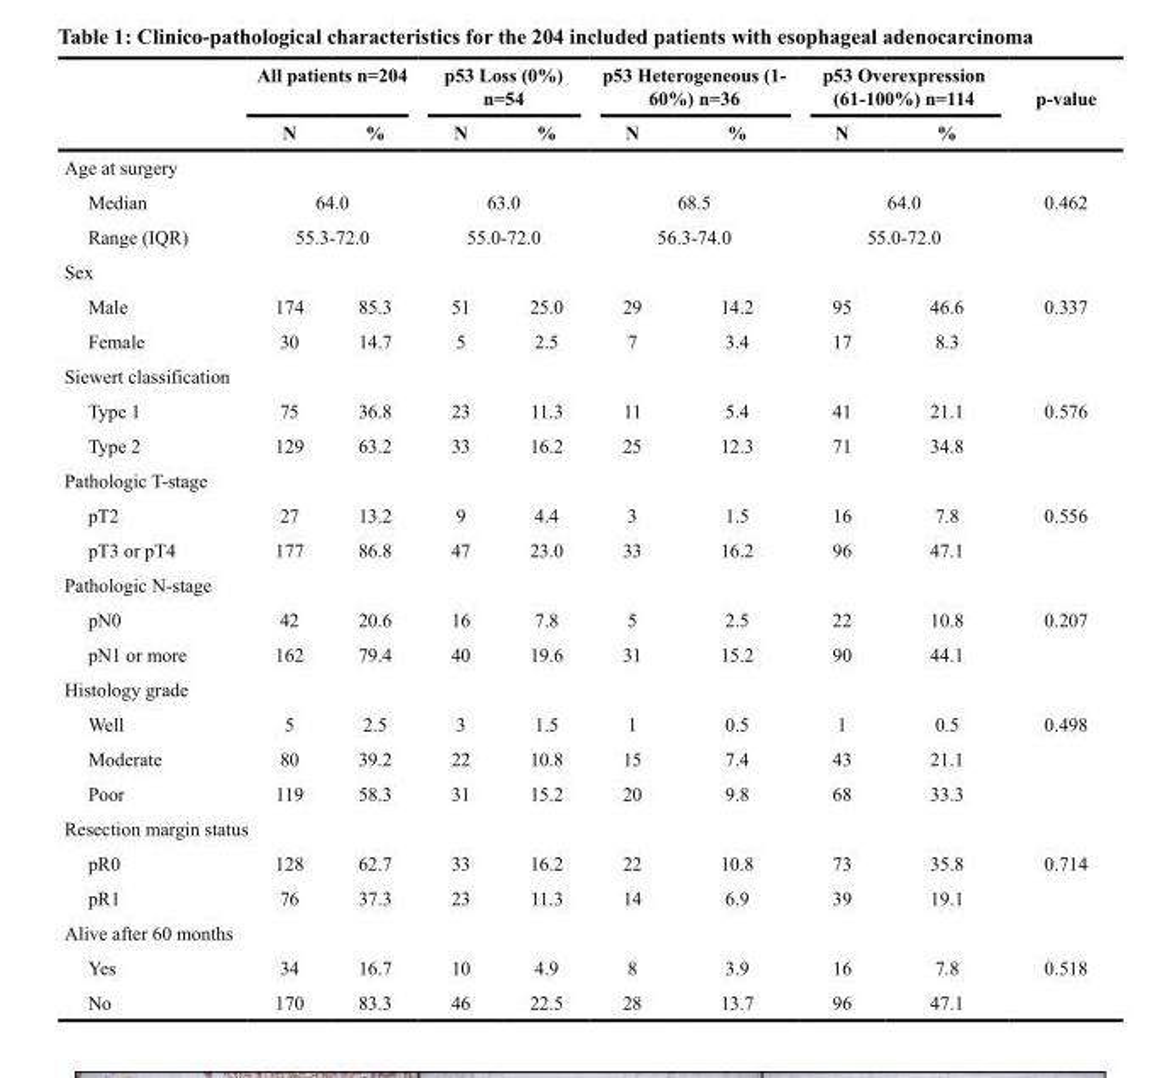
<table><thead><tr><td rowspan="2"></td><td colspan="2">All patients n=204</td><td colspan="2">p53 Loss (0%) n=54</td><td colspan="2">p53 Heterogeneous (1- 60%) n=36</td><td colspan="2">p53 Overexpression (61-100%) n=114</td><td rowspan="2">p-value</td></tr><tr><td>N</td><td>%</td><td>N</td><td>%</td><td>N</td><td>%</td><td>N</td><td>%</td></tr></thead><tbody><tr><td colspan="10">Age at surgery</td></tr><tr><td>Median</td><td colspan="2">64.0</td><td colspan="2">63.0</td><td colspan="2">68.5</td><td colspan="2">64.0</td><td>0.462</td></tr><tr><td>Range (IQR)</td><td colspan="2">55.3-72.0</td><td colspan="2">55.0-72.0</td><td colspan="2">56.3-74.0</td><td colspan="2">55.0-72.0</td><td></td></tr><tr><td colspan="10">Sex</td></tr><tr><td>Male</td><td>174</td><td>85.3</td><td>51</td><td>25.0</td><td>29</td><td>14.2</td><td>95</td><td>46.6</td><td>0.337</td></tr><tr><td>Female</td><td>30</td><td>14.7</td><td>5</td><td>2.5</td><td>7</td><td>3.4</td><td>17</td><td>8.3</td><td></td></tr><tr><td colspan="10">Siewert classification</td></tr><tr><td>Type 1</td><td>75</td><td>36.8</td><td>23</td><td>11.3</td><td>11</td><td>5.4</td><td>41</td><td>21.1</td><td>0.576</td></tr><tr><td>Type 2</td><td>129</td><td>63.2</td><td>33</td><td>16.2</td><td>25</td><td>12.3</td><td>71</td><td>34.8</td><td></td></tr><tr><td colspan="10">Pathologic T-stage</td></tr><tr><td>pT2</td><td>27</td><td>13.2</td><td>9</td><td>4.4</td><td>3</td><td>1.5</td><td>16</td><td>7.8</td><td>0.556</td></tr><tr><td>pT3 or pT4</td><td>177</td><td>86.8</td><td>47</td><td>23.0</td><td>33</td><td>16.2</td><td>96</td><td>47.1</td><td></td></tr><tr><td colspan="10">Pathologic N-stage</td></tr><tr><td>pN0</td><td>42</td><td>20.6</td><td>16</td><td>7.8</td><td>5</td><td>2.5</td><td>22</td><td>10.8</td><td>0.207</td></tr><tr><td>pN1 or more</td><td>162</td><td>79.4</td><td>40</td><td>19.6</td><td>31</td><td>15.2</td><td>90</td><td>44.1</td><td></td></tr><tr><td colspan="10">Histology grade</td></tr><tr><td>Well</td><td>5</td><td>2.5</td><td>3</td><td>1.5</td><td>1</td><td>0.5</td><td>1</td><td>0.5</td><td>0.498</td></tr><tr><td>Moderate</td><td>80</td><td>39.2</td><td>22</td><td>10.8</td><td>15</td><td>7.4</td><td>43</td><td>21.1</td><td></td></tr><tr><td>Poor</td><td>119</td><td>58.3</td><td>31</td><td>15.2</td><td>20</td><td>9.8</td><td>68</td><td>33.3</td><td></td></tr><tr><td colspan="10">Resection margin status</td></tr><tr><td>pR0</td><td>128</td><td>62.7</td><td>33</td><td>16.2</td><td>22</td><td>10.8</td><td>73</td><td>35.8</td><td>0.714</td></tr><tr><td>pR1</td><td>76</td><td>37.3</td><td>23</td><td>11.3</td><td>14</td><td>6.9</td><td>39</td><td>19.1</td><td></td></tr><tr><td colspan="10">Alive after 60 months</td></tr><tr><td>Yes</td><td>34</td><td>16.7</td><td>10</td><td>4.9</td><td>8</td><td>3.9</td><td>16</td><td>7.8</td><td>0.518</td></tr><tr><td>No</td><td>170</td><td>83.3</td><td>46</td><td>22.5</td><td>28</td><td>13.7</td><td>96</td><td>47.1</td><td></td></tr></tbody></table>